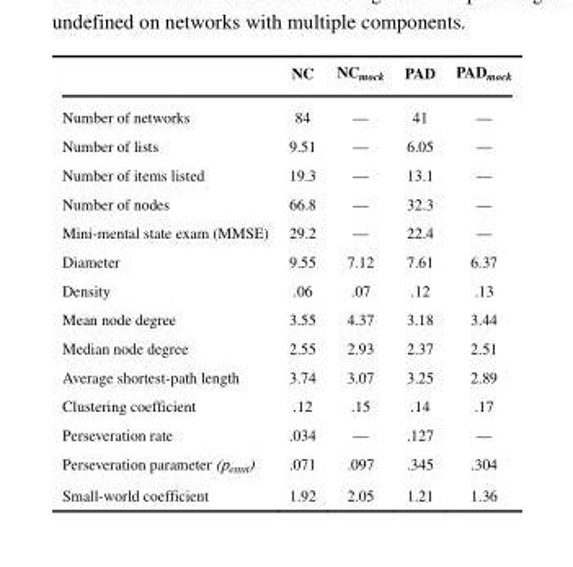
<table><thead><tr><td></td><td>NC</td><td>NC<sub>mock</sub></td><td>PAD</td><td>PAD<sub>mock</sub></td></tr></thead><tbody><tr><td>Number of networks</td><td>84</td><td>—</td><td>41</td><td>—</td></tr><tr><td>Number of lists</td><td>9.51</td><td>—</td><td>6.05</td><td>—</td></tr><tr><td>Number of items listed</td><td>19.3</td><td>—</td><td>13.1</td><td>—</td></tr><tr><td>Number of nodes</td><td>66.8</td><td>—</td><td>32.3</td><td>—</td></tr><tr><td>Mini-mental state exam (MMSE)</td><td>29.2</td><td>—</td><td>22.4</td><td>—</td></tr><tr><td>Diameter</td><td>9.55</td><td>7.12</td><td>7.61</td><td>6.37</td></tr><tr><td>Density</td><td>.06</td><td>.07</td><td>.12</td><td>.13</td></tr><tr><td>Mean node degree</td><td>3.55</td><td>4.37</td><td>3.18</td><td>3.44</td></tr><tr><td>Median node degree</td><td>2.55</td><td>2.93</td><td>2.37</td><td>2.51</td></tr><tr><td>Average shortest-path length</td><td>3.74</td><td>3.07</td><td>3.25</td><td>2.89</td></tr><tr><td>Clustering coefficient</td><td>.12</td><td>.15</td><td>.14</td><td>.17</td></tr><tr><td>Perseveration rate</td><td>.034</td><td>—</td><td>.127</td><td>—</td></tr><tr><td>Perseveration parameter (p<sub>emit</sub>)</td><td>.071</td><td>.097</td><td>.345</td><td>.304</td></tr><tr><td>Small-world coefficient</td><td>1.92</td><td>2.05</td><td>1.21</td><td>1.36</td></tr></tbody></table>